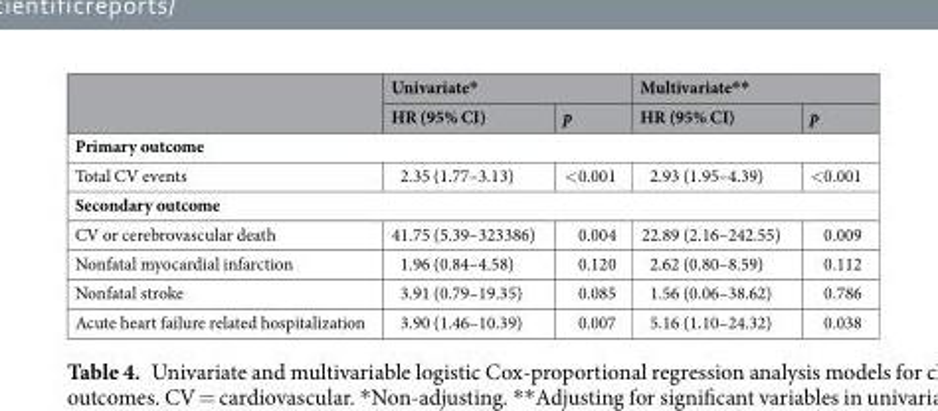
<table><thead><tr><td rowspan="2"></td><td colspan="2">Univariate*</td><td colspan="2">Multivariate**</td></tr><tr><td>HR (95% CI)</td><td>p</td><td>HR (95% CI)</td><td>p</td></tr></thead><tbody><tr><td colspan="5">Primary outcome</td></tr><tr><td>Total CV events</td><td>2.35 (1.77–3.13)</td><td>&lt;0.001</td><td>2.93 (1.95–4.39)</td><td>&lt;0.001</td></tr><tr><td colspan="5">Secondary outcome</td></tr><tr><td>CV or cerebrovascular death</td><td>41.75 (5.39–323386)</td><td>0.004</td><td>22.89 (2.16–242.55)</td><td>0.009</td></tr><tr><td>Nonfatal myocardial infarction</td><td>1.96 (0.84–4.58)</td><td>0.120</td><td>2.62 (0.80–8.59)</td><td>0.112</td></tr><tr><td>Nonfatal stroke</td><td>3.91 (0.79–19.35)</td><td>0.085</td><td>1.56 (0.06–38.62)</td><td>0.786</td></tr><tr><td>Acute heart failure related hospitalization</td><td>3.90 (1.46–10.39)</td><td>0.007</td><td>5.16 (1.10–24.32)</td><td>0.038</td></tr></tbody></table>